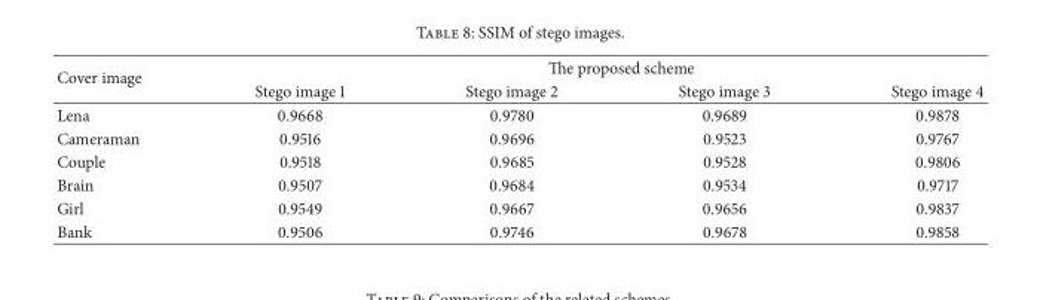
<table><thead><tr><td rowspan="2">Cover image</td><td colspan="4">The proposed scheme</td></tr><tr><td>Stego image 1</td><td>Stego image 2</td><td>Stego image 3</td><td>Stego image 4</td></tr></thead><tbody><tr><td>Lena</td><td>0.9668</td><td>0.9780</td><td>0.9689</td><td>0.9878</td></tr><tr><td>Cameraman</td><td>0.9516</td><td>0.9696</td><td>0.9523</td><td>0.9767</td></tr><tr><td>Couple</td><td>0.9518</td><td>0.9685</td><td>0.9528</td><td>0.9806</td></tr><tr><td>Brain</td><td>0.9507</td><td>0.9684</td><td>0.9534</td><td>0.9717</td></tr><tr><td>Girl</td><td>0.9549</td><td>0.9667</td><td>0.9656</td><td>0.9837</td></tr><tr><td>Bank</td><td>0.9506</td><td>0.9746</td><td>0.9678</td><td>0.9858</td></tr></tbody></table>